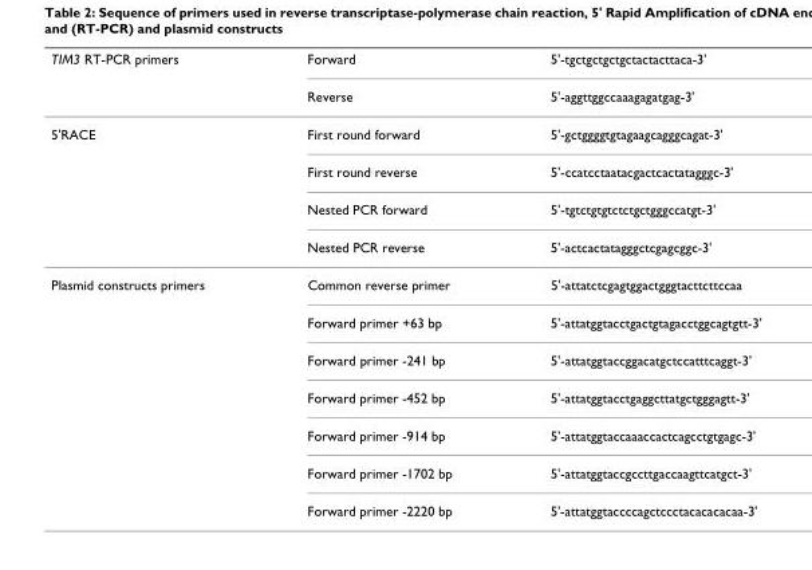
<table><thead><tr><td rowspan="2">TIM3 RT-PCR primers</td><td rowspan="2">Forward Reverse</td><td rowspan="2">5&#x27;-tgctgctgctgctactacttaca-3&#x27; 5&#x27;-aggttggccaaagagatgag-3&#x27;</td></tr><tr></tr></thead><tbody><tr><td rowspan="4">5&#x27;RACE</td><td>First round forward</td><td>5&#x27;-gctggggtgtagaagcagggcagat-3&#x27;</td></tr><tr><td>First round reverse</td><td>5&#x27;-ccatcctaatacgactcactatagggc-3&#x27;</td></tr><tr><td>Nested PCR forward</td><td>5&#x27;-tgtctgtgtctctgctgggccatgt-3&#x27;</td></tr><tr><td>Nested PCR reverse</td><td>5&#x27;-actcactatagggctcgagcggc-3&#x27;</td></tr><tr><td rowspan="7">Plasmid constructs primers</td><td>Common reverse primer</td><td>5&#x27;-attatctcgagtggactgggtacttcttccaa</td></tr><tr><td>Forward primer +63 bp</td><td>5&#x27;-attatggtacctgactgtagacctggcagtgtt-3&#x27;</td></tr><tr><td>Forward primer -241 bp</td><td>5&#x27;-attatggtaccggacatgctccatttcaggt-3&#x27;</td></tr><tr><td>Forward primer -452 bp</td><td>5&#x27;-attatggtacctgaggcttatgctgggagtt-3&#x27;</td></tr><tr><td>Forward primer -914 bp</td><td>5&#x27;-attatggtaccaaaccactcagcctgtgagc-3&#x27;</td></tr><tr><td>Forward primer -1702 bp</td><td>5&#x27;-attatggtaccgccttgaccaagttcatgct-3&#x27;</td></tr><tr><td>Forward primer -2220 bp</td><td>5&#x27;-attatggtaccccagctccctacacacacaa-3&#x27;</td></tr></tbody></table>